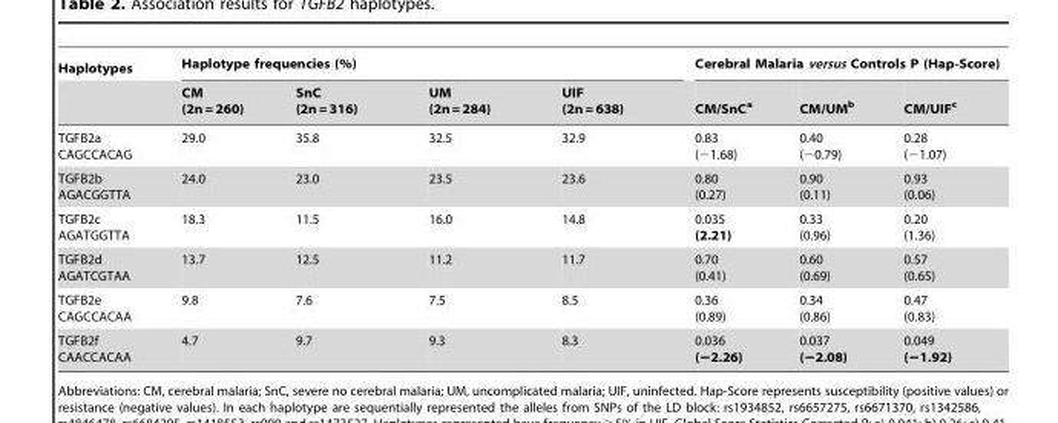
<table><thead><tr><td rowspan="2">Haplotypes</td><td colspan="4">Haplotype frequencies (%)</td><td colspan="3">Cerebral Malaria versus Controls P (Hap-Score)</td></tr><tr><td>CM (2n = 260)</td><td>SnC (2n = 316)</td><td>UM (2n = 284)</td><td>UIF (2n = 638)</td><td>CM/SnC<sup>a</sup></td><td>CM/UM<sup>b</sup></td><td>CM/UIF<sup>c</sup></td></tr></thead><tbody><tr><td>TGFB2a CAGCCACAG</td><td>29.0</td><td>35.8</td><td>32.5</td><td>32.9</td><td>0.83 (−1.68)</td><td>0.40 (−0.79)</td><td>0.28 (−1.07)</td></tr><tr><td>TGFB2b AGACGGTTA</td><td>24.0</td><td>23.0</td><td>23.5</td><td>23.6</td><td>0.80 (0.27)</td><td>0.90 (0.11)</td><td>0.93 (0.06)</td></tr><tr><td>TGFB2c AGATGGTTA</td><td>18.3</td><td>11.5</td><td>16.0</td><td>14.8</td><td>0.035 (2.21)</td><td>0.33 (0.96)</td><td>0.20 (1.36)</td></tr><tr><td>TGFB2d AGATCGTAA</td><td>13.7</td><td>12.5</td><td>11.2</td><td>11.7</td><td>0.70 (0.41)</td><td>0.60 (0.69)</td><td>0.57 (0.65)</td></tr><tr><td>TGFB2e CAGCCACAA</td><td>9.8</td><td>7.6</td><td>7.5</td><td>8.5</td><td>0.36 (0.89)</td><td>0.34 (0.86)</td><td>0.47 (0.83)</td></tr><tr><td>TGFB2f CAACCACAA</td><td>4.7</td><td>9.7</td><td>9.3</td><td>8.3</td><td>0.036 (−2.26)</td><td>0.037 (−2.08)</td><td>0.049 (−1.92)</td></tr></tbody></table>